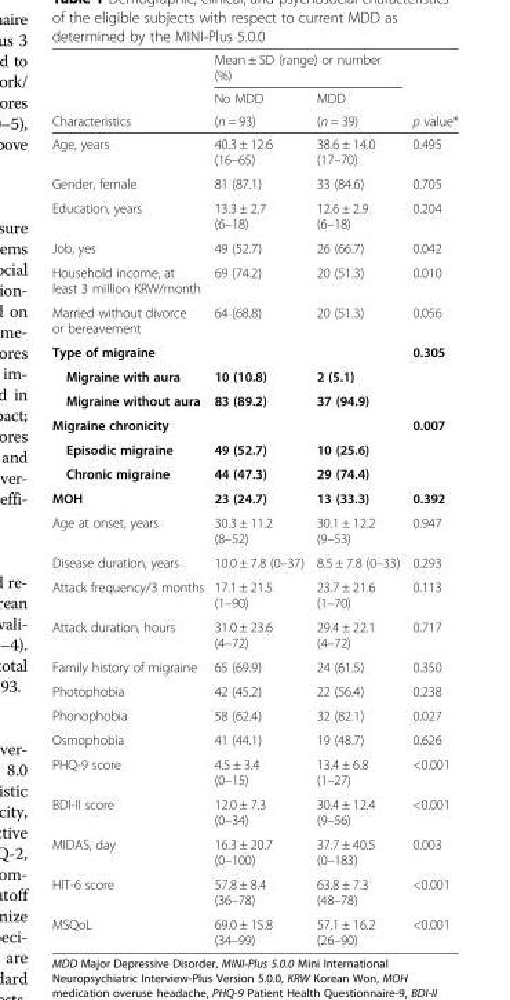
<table><thead><tr><td rowspan="3">Characteristics</td><td colspan="2">Mean ± SD (range) or number (%)</td><td rowspan="3">p value*</td></tr><tr><td rowspan="2">No MDD (n = 93)</td><td rowspan="2">MDD (n = 39)</td></tr><tr></tr></thead><tbody><tr><td>Age, years</td><td>40.3 ± 12.6 (16–65)</td><td>38.6 ± 14.0 (17–70)</td><td>0.495</td></tr><tr><td>Gender, female</td><td>81 (87.1)</td><td>33 (84.6)</td><td>0.705</td></tr><tr><td>Education, years</td><td>13.3 ± 2.7 (6–18)</td><td>12.6 ± 2.9 (6–18)</td><td>0.204</td></tr><tr><td>Job, yes</td><td>49 (52.7)</td><td>26 (66.7)</td><td>0.042</td></tr><tr><td>Household income, at least 3 million KRW/month</td><td>69 (74.2)</td><td>20 (51.3)</td><td>0.010</td></tr><tr><td>Married without divorce or bereavement</td><td>64 (68.8)</td><td>20 (51.3)</td><td>0.056</td></tr><tr><td>Type of migraine</td><td></td><td></td><td>0.305</td></tr><tr><td>Migraine with aura</td><td>10 (10.8)</td><td>2 (5.1)</td><td></td></tr><tr><td>Migraine without aura</td><td>83 (89.2)</td><td>37 (94.9)</td><td></td></tr><tr><td>Migraine chronicity</td><td></td><td></td><td>0.007</td></tr><tr><td>Episodic migraine</td><td>49 (52.7)</td><td>10 (25.6)</td><td></td></tr><tr><td>Chronic migraine</td><td>44 (47.3)</td><td>29 (74.4)</td><td></td></tr><tr><td>MOH</td><td>23 (24.7)</td><td>13 (33.3)</td><td>0.392</td></tr><tr><td>Age at onset, years</td><td>30.3 ± 11.2 (8–52)</td><td>30.1 ± 12.2 (9–53)</td><td>0.947</td></tr><tr><td>Disease duration, years</td><td>10.0 ± 7.8 (0–37)</td><td>8.5 ± 7.8 (0–33)</td><td>0.293</td></tr><tr><td>Attack frequency/3 months</td><td>17.1 ± 21.5 (1–90)</td><td>23.7 ± 21.6 (1–70)</td><td>0.113</td></tr><tr><td>Attack duration, hours</td><td>31.0 ± 23.6 (4–72)</td><td>29.4 ± 22.1 (4–72)</td><td>0.717</td></tr><tr><td>Family history of migraine</td><td>65 (69.9)</td><td>24 (61.5)</td><td>0.350</td></tr><tr><td>Photophobia</td><td>42 (45.2)</td><td>22 (56.4)</td><td>0.238</td></tr><tr><td>Phonophobia</td><td>58 (62.4)</td><td>32 (82.1)</td><td>0.027</td></tr><tr><td>Osmophobia</td><td>41 (44.1)</td><td>19 (48.7)</td><td>0.626</td></tr><tr><td>PHQ-9 score</td><td>4.5 ± 3.4 (0–15)</td><td>13.4 ± 6.8 (1–27)</td><td>&lt;0.001</td></tr><tr><td>BDI-II score</td><td>12.0 ± 7.3 (0–34)</td><td>30.4 ± 12.4 (9–56)</td><td>&lt;0.001</td></tr><tr><td>MIDAS, day</td><td>16.3 ± 20.7 (0–100)</td><td>37.7 ± 40.5 (0–183)</td><td>0.003</td></tr><tr><td>HIT-6 score</td><td>57.8 ± 8.4 (36–78)</td><td>63.8 ± 7.3 (48–78)</td><td>&lt;0.001</td></tr><tr><td>MSQoL</td><td>69.0 ± 15.8 (34–99)</td><td>57.1 ± 16.2 (26–90)</td><td>&lt;0.001</td></tr></tbody></table>